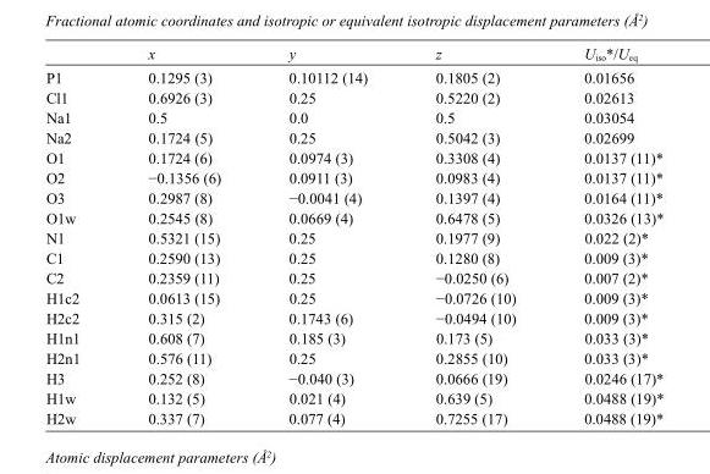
<table><thead><tr><td></td><td>x</td><td>y</td><td>z</td><td>U<sub>iso</sub>*/U<sub>eq</sub></td></tr></thead><tbody><tr><td>P1</td><td>0.1295 (3)</td><td>0.10112 (14)</td><td>0.1805 (2)</td><td>0.01656</td></tr><tr><td>Cl1</td><td>0.6926 (3)</td><td>0.25</td><td>0.5220 (2)</td><td>0.02613</td></tr><tr><td>Na1</td><td>0.5</td><td>0.0</td><td>0.5</td><td>0.03054</td></tr><tr><td>Na2</td><td>0.1724 (5)</td><td>0.25</td><td>0.5042 (3)</td><td>0.02699</td></tr><tr><td>O1</td><td>0.1724 (6)</td><td>0.0974 (3)</td><td>0.3308 (4)</td><td>0.0137 (11)*</td></tr><tr><td>O2</td><td>−0.1356 (6)</td><td>0.0911 (3)</td><td>0.0983 (4)</td><td>0.0137 (11)*</td></tr><tr><td>O3</td><td>0.2987 (8)</td><td>−0.0041 (4)</td><td>0.1397 (4)</td><td>0.0164 (11)*</td></tr><tr><td>O1w</td><td>0.2545 (8)</td><td>0.0669 (4)</td><td>0.6478 (5)</td><td>0.0326 (13)*</td></tr><tr><td>N1</td><td>0.5321 (15)</td><td>0.25</td><td>0.1977 (9)</td><td>0.022 (2)*</td></tr><tr><td>C1</td><td>0.2590 (13)</td><td>0.25</td><td>0.1280 (8)</td><td>0.009 (3)*</td></tr><tr><td>C2</td><td>0.2359 (11)</td><td>0.25</td><td>−0.0250 (6)</td><td>0.007 (2)*</td></tr><tr><td>H1c2</td><td>0.0613 (15)</td><td>0.25</td><td>−0.0726 (10)</td><td>0.009 (3)*</td></tr><tr><td>H2c2</td><td>0.315 (2)</td><td>0.1743 (6)</td><td>−0.0494 (10)</td><td>0.009 (3)*</td></tr><tr><td>H1n1</td><td>0.608 (7)</td><td>0.185 (3)</td><td>0.173 (5)</td><td>0.033 (3)*</td></tr><tr><td>H2n1</td><td>0.576 (11)</td><td>0.25</td><td>0.2855 (10)</td><td>0.033 (3)*</td></tr><tr><td>H3</td><td>0.252 (8)</td><td>−0.040 (3)</td><td>0.0666 (19)</td><td>0.0246 (17)*</td></tr><tr><td>H1w</td><td>0.132 (5)</td><td>0.021 (4)</td><td>0.639 (5)</td><td>0.0488 (19)*</td></tr><tr><td>H2w</td><td>0.337 (7)</td><td>0.077 (4)</td><td>0.7255 (17)</td><td>0.0488 (19)*</td></tr></tbody></table>